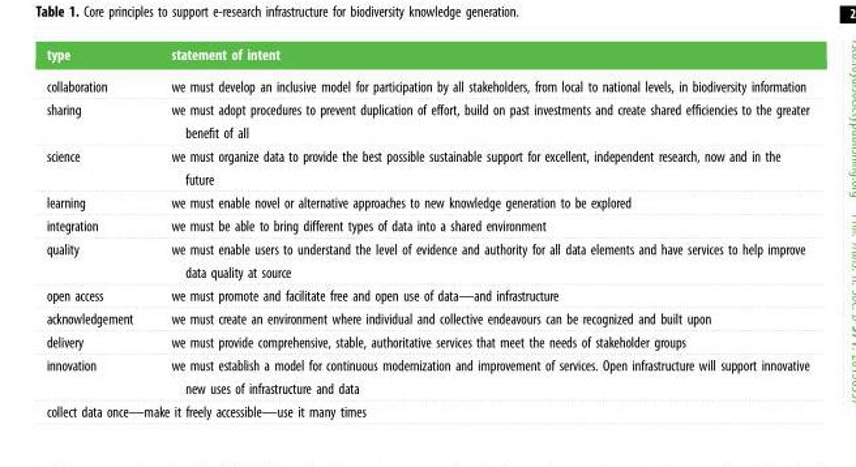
<table><thead><tr><td>type</td><td>statement of intent</td></tr></thead><tbody><tr><td>collaboration</td><td>we must develop an inclusive model for participation by all stakeholders, from local to national levels, in biodiversity information</td></tr><tr><td>sharing</td><td>we must adopt procedures to prevent duplication of effort, build on past investments and create shared efficiencies to the greater benefit of all</td></tr><tr><td>science</td><td>we must organize data to provide the best possible sustainable support for excellent, independent research, now and in the future</td></tr><tr><td>learning</td><td>we must enable novel or alternative approaches to new knowledge generation to be explored</td></tr><tr><td>integration</td><td>we must be able to bring different types of data into a shared environment</td></tr><tr><td>quality</td><td>we must enable users to understand the level of evidence and authority for all data elements and have services to help improve data quality at source</td></tr><tr><td>open access</td><td>we must promote and facilitate free and open use of data—and infrastructure</td></tr><tr><td>acknowledgement</td><td>we must create an environment where individual and collective endeavours can be recognized and built upon</td></tr><tr><td>delivery</td><td>we must provide comprehensive, stable, authoritative services that meet the needs of stakeholder groups</td></tr><tr><td>innovation</td><td>we must establish a model for continuous modernization and improvement of services. Open infrastructure will support innovative new uses of infrastructure and data</td></tr><tr><td colspan="2">collect data once—make it freely accessible—use it many times</td></tr></tbody></table>